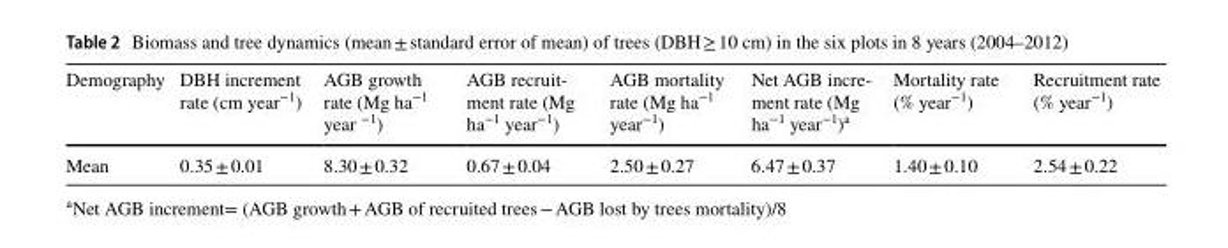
<table><thead><tr><td>Demography</td><td>DBH increment rate (cm year<sup>−1</sup>)</td><td>AGB growth rate (Mg ha<sup>−1</sup> year <sup>−1</sup>)</td><td>AGB recruit- ment rate (Mg ha−1 year−1)</td><td>AGB mortality rate (Mg ha<sup>−1</sup> year<sup>−1</sup>)</td><td>Net AGB incre- ment rate (Mg ha−1 year−1)a</td><td>Mortality rate (% year<sup>−1</sup>)</td><td>Recruitment rate (% year<sup>−1</sup>)</td></tr></thead><tbody><tr><td>Mean</td><td>0.35 ± 0.01</td><td>8.30 ± 0.32</td><td>0.67 ± 0.04</td><td>2.50 ± 0.27</td><td>6.47 ± 0.37</td><td>1.40 ± 0.10</td><td>2.54 ± 0.22</td></tr></tbody></table>